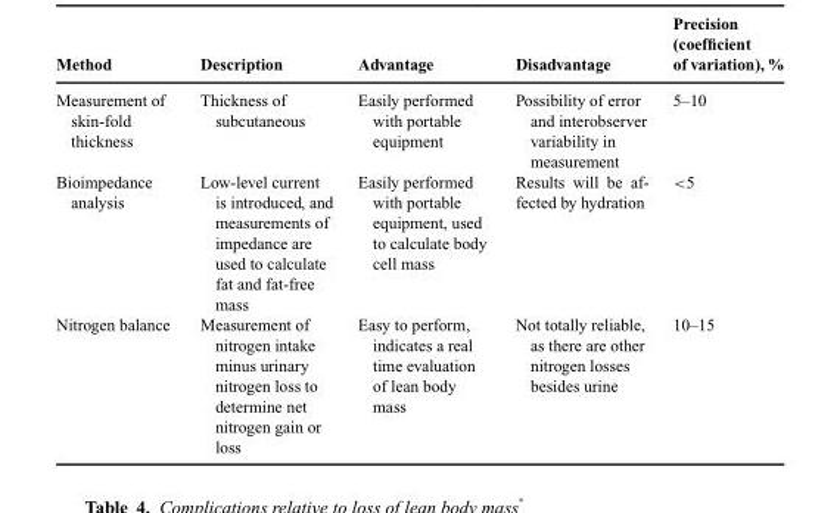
<table><thead><tr><td>Method</td><td>Description</td><td>Advantage</td><td>Disadvantage</td><td>of variation), %</td></tr></thead><tbody><tr><td>Measurement of skin-fold thickness</td><td>Thickness of subcutaneous</td><td>Easily performed with portable equipment</td><td>Possibility of error and interobserver variability in measurement</td><td>5–10</td></tr><tr><td>Bioimpedance analysis</td><td>Low-level current is introduced, and measurements of impedance are used to calculate fat and fat-free mass</td><td>Easily performed with portable equipment, used to calculate body cell mass</td><td>Results will be af- fected by hydration</td><td>&lt;5</td></tr><tr><td>Nitrogen balance</td><td>Measurement of nitrogen intake minus urinary nitrogen loss to determine net nitrogen gain or loss</td><td>Easy to perform, indicates a real time evaluation of lean body mass</td><td>Not totally reliable, as there are other nitrogen losses besides urine</td><td>10–15</td></tr></tbody></table>